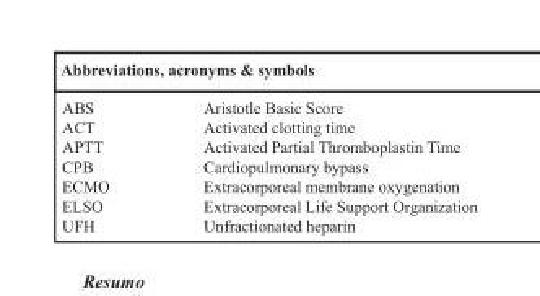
<table><thead><tr><td colspan="2">Abbreviations, acronyms &amp; symbols</td></tr><tr><td>ABS</td><td>Aristotle Basic Score</td></tr></thead><tbody><tr><td>ACT</td><td>Activated clotting time</td></tr><tr><td>APTT</td><td>Activated Partial Thromboplastin Time</td></tr><tr><td>CPB</td><td>Cardiopulmonary bypass</td></tr><tr><td>ECMO</td><td>Extracorporeal membrane oxygenation</td></tr><tr><td>ELSO</td><td>Extracorporeal Life Support Organization</td></tr><tr><td>UFH</td><td>Unfractionated heparin</td></tr></tbody></table>